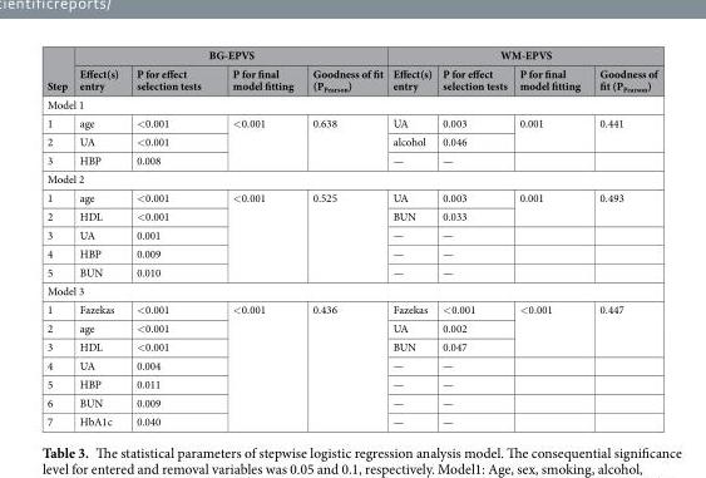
<table><thead><tr><td rowspan="2">Step</td><td colspan="4">BG-EPVS</td><td colspan="4">WM-EPVS</td></tr><tr><td>Effect(s) entry</td><td>P for effect selection tests</td><td>P for final model fitting</td><td>Goodness of fit (P<sub>Pearson</sub>)</td><td>Effect(s) entry</td><td>P for effect selection tests</td><td>P for final model fitting</td><td>Goodness of fit (P<sub>Pearson</sub>)</td></tr></thead><tbody><tr><td colspan="9">Model 1</td></tr><tr><td>1</td><td>age</td><td>&lt;0.001</td><td rowspan="3">&lt;0.001</td><td rowspan="3">0.638</td><td>UA</td><td>0.003</td><td rowspan="2">0.001</td><td rowspan="2">0.441</td></tr><tr><td>2</td><td>UA</td><td>&lt;0.001</td><td>alcohol</td><td>0.046</td></tr><tr><td>3</td><td>HBP</td><td>0.008</td><td>—</td><td>—</td><td></td><td></td></tr><tr><td colspan="9">Model 2</td></tr><tr><td>1</td><td>age</td><td>&lt;0.001</td><td rowspan="5">&lt;0.001</td><td rowspan="5">0.525</td><td>UA</td><td>0.003</td><td rowspan="2">0.001</td><td rowspan="2">0.493</td></tr><tr><td>2</td><td>HDL</td><td>&lt;0.001</td><td>BUN</td><td>0.033</td></tr><tr><td>3</td><td>UA</td><td>0.001</td><td>—</td><td>—</td><td></td><td></td></tr><tr><td>4</td><td>HBP</td><td>0.009</td><td>—</td><td>—</td><td></td><td></td></tr><tr><td>5</td><td>BUN</td><td>0.010</td><td>—</td><td>—</td><td></td><td></td></tr><tr><td colspan="9">Model 3</td></tr><tr><td>1</td><td>Fazekas</td><td>&lt;0.001</td><td rowspan="7">&lt;0.001</td><td rowspan="7">0.436</td><td>Fazekas</td><td>&lt;0.001</td><td rowspan="3">&lt;0.001</td><td rowspan="3">0.447</td></tr><tr><td>2</td><td>age</td><td>&lt;0.001</td><td>UA</td><td>0.002</td></tr><tr><td>3</td><td>HDL</td><td>&lt;0.001</td><td>BUN</td><td>0.047</td></tr><tr><td>4</td><td>UA</td><td>0.004</td><td>—</td><td>—</td><td></td><td></td></tr><tr><td>5</td><td>HBP</td><td>0.011</td><td>—</td><td>—</td><td></td><td></td></tr><tr><td>6</td><td>BUN</td><td>0.009</td><td>—</td><td>—</td><td></td><td></td></tr><tr><td>7</td><td>HbA1c</td><td>0.040</td><td>—</td><td>—</td><td></td><td></td></tr></tbody></table>